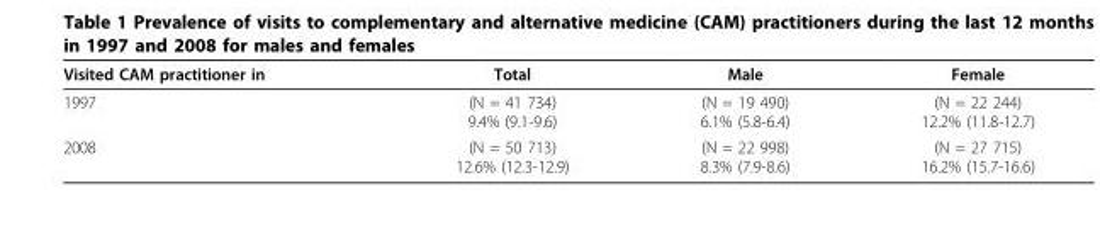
<table><thead><tr><td>Visited CAM practitioner in</td><td>Total</td><td>Male</td><td>Female</td></tr></thead><tbody><tr><td>1997</td><td>(N = 41 734) 9.4% (9.1-9.6)</td><td>(N = 19 490) 6.1% (5.8-6.4)</td><td>(N = 22 244) 12.2% (11.8-12.7)</td></tr><tr><td>2008</td><td>(N = 50 713) 12.6% (12.3-12.9)</td><td>(N = 22 998) 8.3% (7.9-8.6)</td><td>(N = 27 715) 16.2% (15.7-16.6)</td></tr></tbody></table>